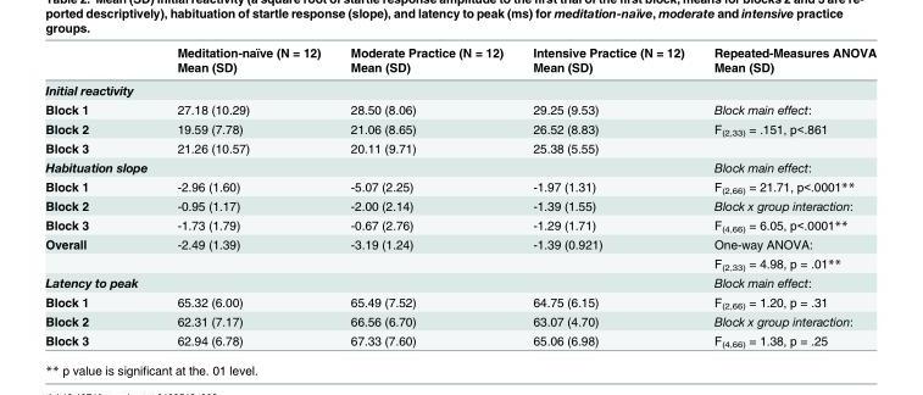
<table><thead><tr><td rowspan="2"></td><td rowspan="2">Meditation-naïve (N = 12) Mean (SD)</td><td rowspan="2">Moderate Practice (N = 12) Mean (SD)</td><td rowspan="2">Intensive Practice (N = 12) Mean (SD)</td><td rowspan="2">Repeated-Measures ANOVA Mean (SD)</td></tr><tr></tr></thead><tbody><tr><td colspan="5">Initial reactivity</td></tr><tr><td>Block 1</td><td>27.18 (10.29)</td><td>28.50 (8.06)</td><td>29.25 (9.53)</td><td>Block main effect:</td></tr><tr><td>Block 2</td><td>19.59 (7.78)</td><td>21.06 (8.65)</td><td>26.52 (8.83)</td><td>F<sub>(2,33)</sub> = .151, p&lt;.861</td></tr><tr><td>Block 3</td><td>21.26 (10.57)</td><td>20.11 (9.71)</td><td>25.38 (5.55)</td><td></td></tr><tr><td>Habituation slope</td><td></td><td></td><td></td><td>Block main effect:</td></tr><tr><td>Block 1</td><td>-2.96 (1.60)</td><td>-5.07 (2.25)</td><td>-1.97 (1.31)</td><td>F<sub>(2,66)</sub> = 21.71, p&lt;.0001**</td></tr><tr><td>Block 2</td><td>-0.95 (1.17)</td><td>-2.00 (2.14)</td><td>-1.39 (1.55)</td><td>Block x group interaction:</td></tr><tr><td>Block 3</td><td>-1.73 (1.79)</td><td>-0.67 (2.76)</td><td>-1.29 (1.71)</td><td>F<sub>(4,66)</sub> = 6.05, p&lt;.0001**</td></tr><tr><td rowspan="2">Overall</td><td>-2.49 (1.39)</td><td>-3.19 (1.24)</td><td>-1.39 (0.921)</td><td>One-way ANOVA:</td></tr><tr><td></td><td></td><td></td><td>F<sub>(2,33)</sub> = 4.98, p = .01**</td></tr><tr><td>Latency to peak</td><td></td><td></td><td></td><td>Block main effect:</td></tr><tr><td>Block 1</td><td>65.32 (6.00)</td><td>65.49 (7.52)</td><td>64.75 (6.15)</td><td>F<sub>(2,66)</sub> = 1.20, p = .31</td></tr><tr><td>Block 2</td><td>62.31 (7.17)</td><td>66.56 (6.70)</td><td>63.07 (4.70)</td><td>Block x group interaction:</td></tr><tr><td>Block 3</td><td>62.94 (6.78)</td><td>67.33 (7.60)</td><td>65.06 (6.98)</td><td>F<sub>(4,66)</sub> = 1.38, p = .25</td></tr></tbody></table>